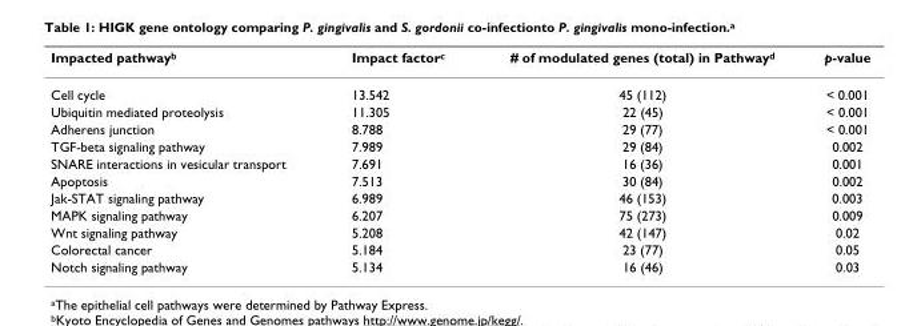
<table><thead><tr><td>Impacted pathway<sup>b</sup></td><td>Impact factor<sup>c</sup></td><td># of modulated genes (total) in Pathway<sup>d</sup></td><td>p-value</td></tr></thead><tbody><tr><td>Cell cycle</td><td>13.542</td><td>45 (112)</td><td>&lt; 0.001</td></tr><tr><td>Ubiquitin mediated proteolysis</td><td>11.305</td><td>22 (45)</td><td>&lt; 0.001</td></tr><tr><td>Adherens junction</td><td>8.788</td><td>29 (77)</td><td>&lt; 0.001</td></tr><tr><td>TGF-beta signaling pathway</td><td>7.989</td><td>29 (84)</td><td>0.002</td></tr><tr><td>SNARE interactions in vesicular transport</td><td>7.691</td><td>16 (36)</td><td>0.001</td></tr><tr><td>Apoptosis</td><td>7.513</td><td>30 (84)</td><td>0.002</td></tr><tr><td>Jak-STAT signaling pathway</td><td>6.989</td><td>46 (153)</td><td>0.003</td></tr><tr><td>MAPK signaling pathway</td><td>6.207</td><td>75 (273)</td><td>0.009</td></tr><tr><td>Wnt signaling pathway</td><td>5.208</td><td>42 (147)</td><td>0.02</td></tr><tr><td>Colorectal cancer</td><td>5.184</td><td>23 (77)</td><td>0.05</td></tr><tr><td>Notch signaling pathway</td><td>5.134</td><td>16 (46)</td><td>0.03</td></tr></tbody></table>